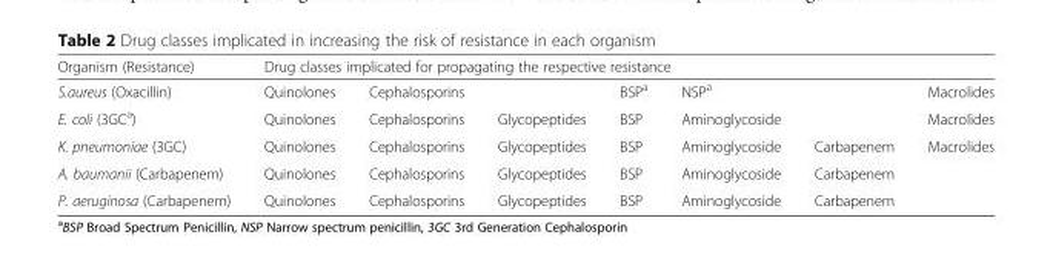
<table><thead><tr><td rowspan="2">Organism (Resistance) S.aureus (Oxacillin)</td><td colspan="7">Drug classes implicated for propagating the respective resistance</td></tr><tr><td>Quinolones</td><td>Cephalosporins</td><td></td><td>BSP<sup>a</sup></td><td>NSP<sup>a</sup></td><td></td><td>Macrolides</td></tr></thead><tbody><tr><td>E. coli (3GC<sup>a</sup>)</td><td>Quinolones</td><td>Cephalosporins</td><td>Glycopeptides</td><td>BSP</td><td>Aminoglycoside</td><td></td><td>Macrolides</td></tr><tr><td>K. pneumoniae (3GC)</td><td>Quinolones</td><td>Cephalosporins</td><td>Glycopeptides</td><td>BSP</td><td>Aminoglycoside</td><td>Carbapenem</td><td>Macrolides</td></tr><tr><td>A. baumanii (Carbapenem)</td><td>Quinolones</td><td>Cephalosporins</td><td>Glycopeptides</td><td>BSP</td><td>Aminoglycoside</td><td>Carbapenem</td><td></td></tr><tr><td>P. aeruginosa (Carbapenem)</td><td>Quinolones</td><td>Cephalosporins</td><td>Glycopeptides</td><td>BSP</td><td>Aminoglycoside</td><td>Carbapenem</td><td></td></tr></tbody></table>